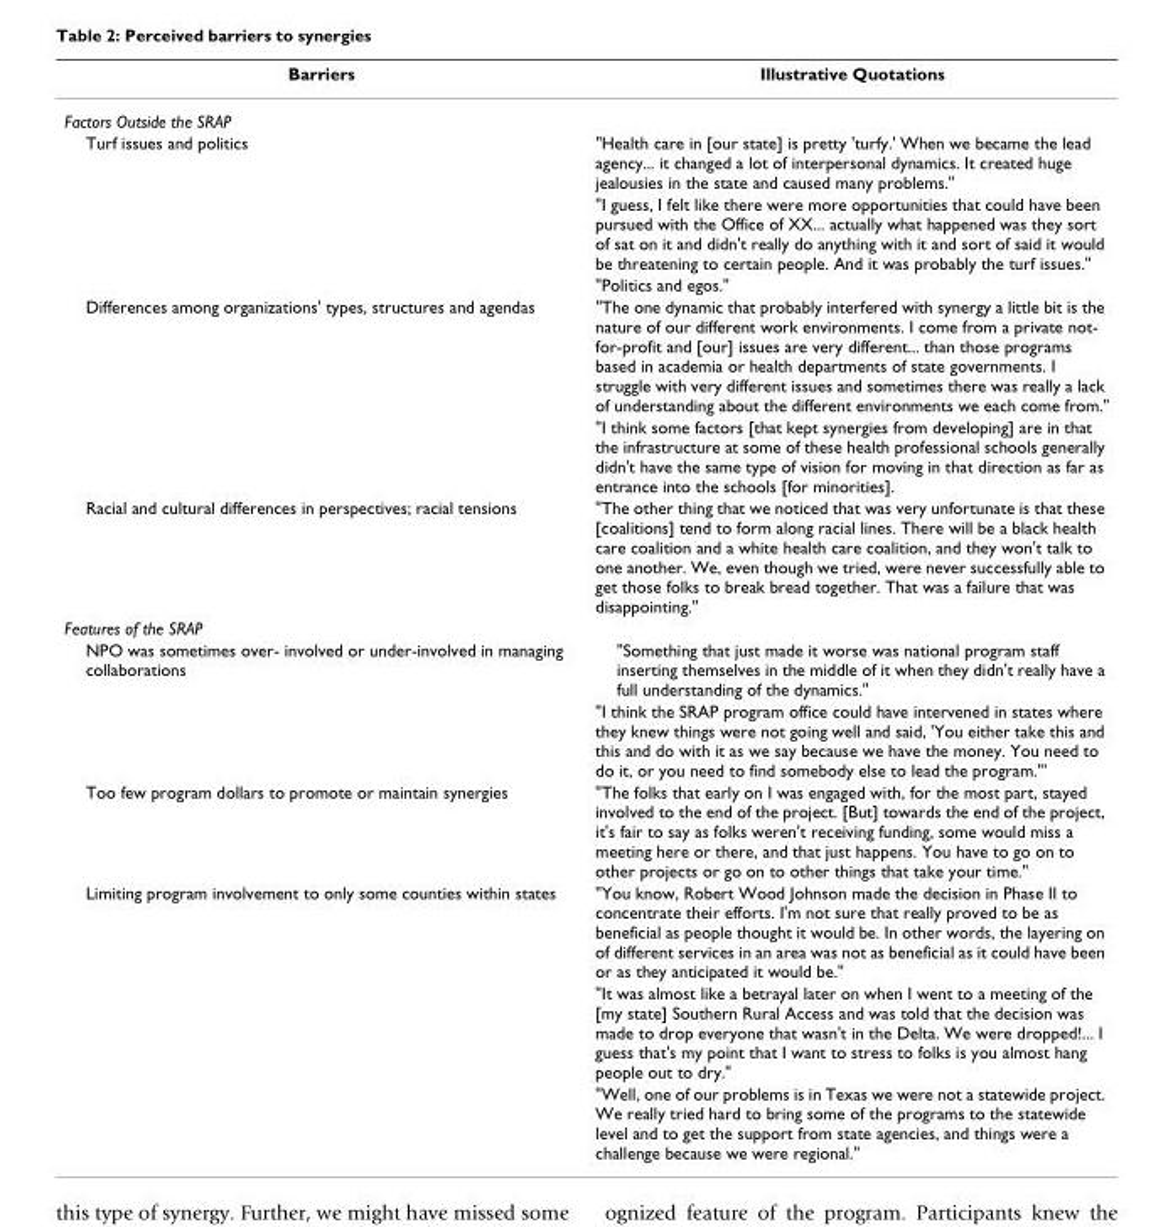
<table><thead><tr><td>Barriers</td><td>Illustrative Quotations</td></tr></thead><tbody><tr><td colspan="2">Factors Outside the SRAP</td></tr><tr><td rowspan="3">Turf issues and politics</td><td>&quot;Health care in [our state] is pretty &#x27;turfy.&#x27; When we became the lead agency... it changed a lot of interpersonal dynamics. It created huge jealousies in the state and caused many problems.&quot;</td></tr><tr><td>&quot;I guess, I felt like there were more opportunities that could have been pursued with the Office of XX... actually what happened was they sort of sat on it and didn&#x27;t really do anything with it and sort of said it would be threatening to certain people. And it was probably the turf issues.&quot;</td></tr><tr><td>&quot;Politics and egos.&quot;</td></tr><tr><td rowspan="2">Differences among organizations&#x27; types, structures and agendas</td><td>&quot;The one dynamic that probably interfered with synergy a little bit is the nature of our different work environments. I come from a private not- for-profit and [our] issues are very different... than those programs based in academia or health departments of state governments. I struggle with very different issues and sometimes there was really a lack of understanding about the different environments we each come from.&quot;</td></tr><tr><td>&quot;I think some factors [that kept synergies from developing] are in that the infrastructure at some of these health professional schools generally didn&#x27;t have the same type of vision for moving in that direction as far as entrance into the schools [for minorities].</td></tr><tr><td>Racial and cultural differences in perspectives; racial tensions</td><td>&quot;The other thing that we noticed that was very unfortunate is that these [coalitions] tend to form along racial lines. There will be a black health care coalition and a white health care coalition, and they won&#x27;t talk to one another. We, even though we tried, were never successfully able to get those folks to break bread together. That was a failure that was disappointing.&quot;</td></tr><tr><td colspan="2">Features of the SRAP</td></tr><tr><td rowspan="2">NPO was sometimes over- involved or under-involved in managing collaborations</td><td>&quot;Something that just made it worse was national program staff inserting themselves in the middle of it when they didn&#x27;t really have a full understanding of the dynamics.&quot;</td></tr><tr><td>&quot;I think the SRAP program office could have intervened in states where they knew things were not going well and said, &#x27;You either take this and this and do with it as we say because we have the money. You need to do it, or you need to find somebody else to lead the program.&quot;&#x27;</td></tr><tr><td>Too few program dollars to promote or maintain synergies</td><td>&quot;The folks that early on I was engaged with, for the most part, stayed involved to the end of the project. [But] towards the end of the project, it&#x27;s fair to say as folks weren&#x27;t receiving funding, some would miss a meeting here or there, and that just happens. You have to go on to other projects or go on to other things that take your time.&quot;</td></tr><tr><td rowspan="3">Limiting program involvement to only some counties within states</td><td>&quot;You know, Robert Wood Johnson made the decision in Phase II to concentrate their efforts. I&#x27;m not sure that really proved to be as beneficial as people thought it would be. In other words, the layering on of different services in an area was not as beneficial as it could have been or as they anticipated it would be.&quot;</td></tr><tr><td>&quot;It was almost like a betrayal later on when I went to a meeting of the [my state] Southern Rural Access and was told that the decision was made to drop everyone that wasn&#x27;t in the Delta. We were dropped!... I guess that&#x27;s my point that I want to stress to folks is you almost hang people out to dry.&quot;</td></tr><tr><td>&quot;Well, one of our problems is in Texas we were not a statewide project. We really tried hard to bring some of the programs to the statewide level and to get the support from state agencies, and things were a challenge because we were regional.&quot;</td></tr></tbody></table>